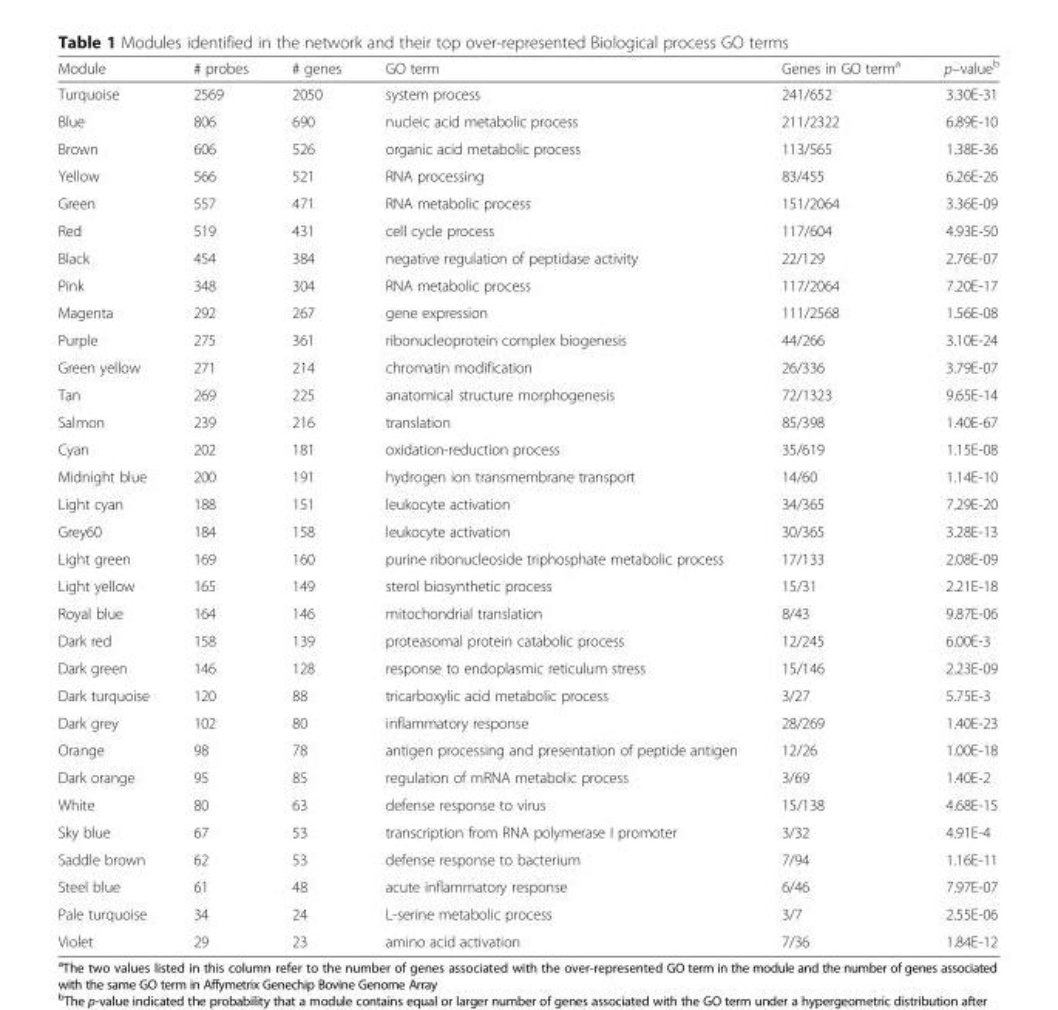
<table><thead><tr><td>Module</td><td># probes</td><td># genes</td><td>GO term</td><td>Genes in GO term<sup>a</sup></td><td>p–value<sup>b</sup></td></tr></thead><tbody><tr><td>Turquoise</td><td>2569</td><td>2050</td><td>system process</td><td>241/652</td><td>3.30E-31</td></tr><tr><td>Blue</td><td>806</td><td>690</td><td>nucleic acid metabolic process</td><td>211/2322</td><td>6.89E-10</td></tr><tr><td>Brown</td><td>606</td><td>526</td><td>organic acid metabolic process</td><td>113/565</td><td>1.38E-36</td></tr><tr><td>Yellow</td><td>566</td><td>521</td><td>RNA processing</td><td>83/455</td><td>6.26E-26</td></tr><tr><td>Green</td><td>557</td><td>471</td><td>RNA metabolic process</td><td>151/2064</td><td>3.36E-09</td></tr><tr><td>Red</td><td>519</td><td>431</td><td>cell cycle process</td><td>117/604</td><td>4.93E-50</td></tr><tr><td>Black</td><td>454</td><td>384</td><td>negative regulation of peptidase activity</td><td>22/129</td><td>2.76E-07</td></tr><tr><td>Pink</td><td>348</td><td>304</td><td>RNA metabolic process</td><td>117/2064</td><td>7.20E-17</td></tr><tr><td>Magenta</td><td>292</td><td>267</td><td>gene expression</td><td>111/2568</td><td>1.56E-08</td></tr><tr><td>Purple</td><td>275</td><td>361</td><td>ribonucleoprotein complex biogenesis</td><td>44/266</td><td>3.10E-24</td></tr><tr><td>Green yellow</td><td>271</td><td>214</td><td>chromatin modification</td><td>26/336</td><td>3.79E-07</td></tr><tr><td>Tan</td><td>269</td><td>225</td><td>anatomical structure morphogenesis</td><td>72/1323</td><td>9.65E-14</td></tr><tr><td>Salmon</td><td>239</td><td>216</td><td>translation</td><td>85/398</td><td>1.40E-67</td></tr><tr><td>Cyan</td><td>202</td><td>181</td><td>oxidation-reduction process</td><td>35/619</td><td>1.15E-08</td></tr><tr><td>Midnight blue</td><td>200</td><td>191</td><td>hydrogen ion transmembrane transport</td><td>14/60</td><td>1.14E-10</td></tr><tr><td>Light cyan</td><td>188</td><td>151</td><td>leukocyte activation</td><td>34/365</td><td>7.29E-20</td></tr><tr><td>Grey60</td><td>184</td><td>158</td><td>leukocyte activation</td><td>30/365</td><td>3.28E-13</td></tr><tr><td>Light green</td><td>169</td><td>160</td><td>purine ribonucleoside triphosphate metabolic process</td><td>17/133</td><td>2.08E-09</td></tr><tr><td>Light yellow</td><td>165</td><td>149</td><td>sterol biosynthetic process</td><td>15/31</td><td>2.21E-18</td></tr><tr><td>Royal blue</td><td>164</td><td>146</td><td>mitochondrial translation</td><td>8/43</td><td>9.87E-06</td></tr><tr><td>Dark red</td><td>158</td><td>139</td><td>proteasomal protein catabolic process</td><td>12/245</td><td>6.00E-3</td></tr><tr><td>Dark green</td><td>146</td><td>128</td><td>response to endoplasmic reticulum stress</td><td>15/146</td><td>2.23E-09</td></tr><tr><td>Dark turquoise</td><td>120</td><td>88</td><td>tricarboxylic acid metabolic process</td><td>3/27</td><td>5.75E-3</td></tr><tr><td>Dark grey</td><td>102</td><td>80</td><td>inflammatory response</td><td>28/269</td><td>1.40E-23</td></tr><tr><td>Orange</td><td>98</td><td>78</td><td>antigen processing and presentation of peptide antigen</td><td>12/26</td><td>1.00E-18</td></tr><tr><td>Dark orange</td><td>95</td><td>85</td><td>regulation of mRNA metabolic process</td><td>3/69</td><td>1.40E-2</td></tr><tr><td>White</td><td>80</td><td>63</td><td>defense response to virus</td><td>15/138</td><td>4.68E-15</td></tr><tr><td>Sky blue</td><td>67</td><td>53</td><td>transcription from RNA polymerase I promoter</td><td>3/32</td><td>4.91E-4</td></tr><tr><td>Saddle brown</td><td>62</td><td>53</td><td>defense response to bacterium</td><td>7/94</td><td>1.16E-11</td></tr><tr><td>Steel blue</td><td>61</td><td>48</td><td>acute inflammatory response</td><td>6/46</td><td>7.97E-07</td></tr><tr><td>Pale turquoise</td><td>34</td><td>24</td><td>L-serine metabolic process</td><td>3/7</td><td>2.55E-06</td></tr><tr><td>Violet</td><td>29</td><td>23</td><td>amino acid activation</td><td>7/36</td><td>1.84E-12</td></tr></tbody></table>